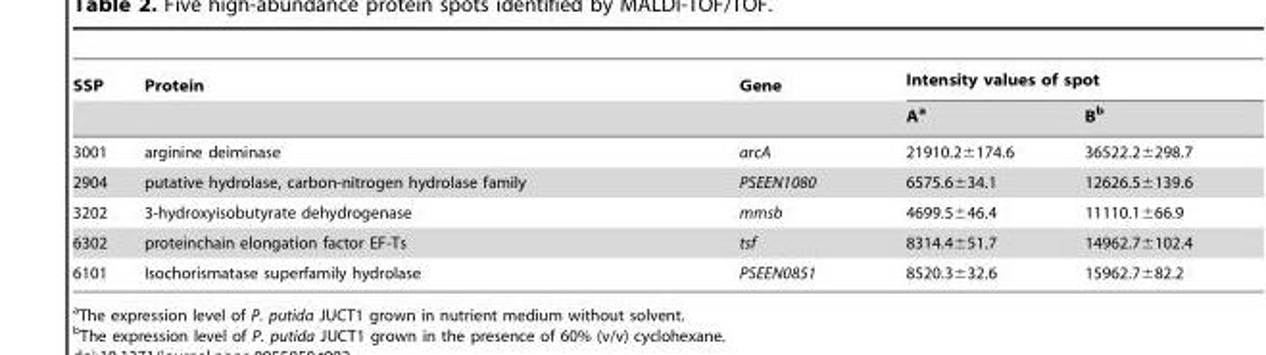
<table><thead><tr><td rowspan="2">SSP</td><td rowspan="2">Protein</td><td rowspan="2">Gene</td><td colspan="2">Intensity values of spot</td></tr><tr><td>A<sup>a</sup></td><td>B<sup>b</sup></td></tr></thead><tbody><tr><td>3001</td><td>arginine deiminase</td><td>arcA</td><td>21910.2±174.6</td><td>36522.2±298.7</td></tr><tr><td>2904</td><td>putative hydrolase, carbon-nitrogen hydrolase family</td><td>PSEEN1080</td><td>6575.6±34.1</td><td>12626.5±139.6</td></tr><tr><td>3202</td><td>3-hydroxyisobutyrate dehydrogenase</td><td>mmsb</td><td>4699.5±46.4</td><td>11110.1±66.9</td></tr><tr><td>6302</td><td>proteinchain elongation factor EF-Ts</td><td>tsf</td><td>8314.4±51.7</td><td>14962.7±102.4</td></tr><tr><td>6101</td><td>Isochorismatase superfamily hydrolase</td><td>PSEEN0851</td><td>8520.3±32.6</td><td>15962.7±82.2</td></tr></tbody></table>